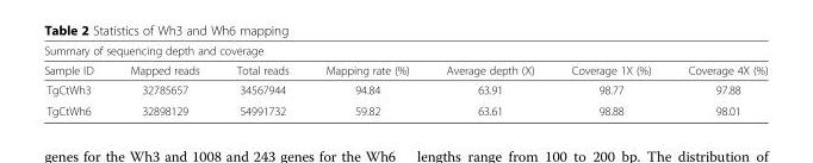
<table><thead><tr><td colspan="7">Summary of sequencing depth and coverage</td></tr><tr><td>Sample ID</td><td>Mapped reads</td><td>Total reads</td><td>Mapping rate (%)</td><td>Average depth (X)</td><td>Coverage 1X (%)</td><td>Coverage 4X (%)</td></tr></thead><tbody><tr><td>TgCtWh3</td><td>32785657</td><td>34567944</td><td>94.84</td><td>63.91</td><td>98.77</td><td>97.88</td></tr><tr><td>TgCtWh6</td><td>32898129</td><td>54991732</td><td>59.82</td><td>63.61</td><td>98.88</td><td>98.01</td></tr></tbody></table>